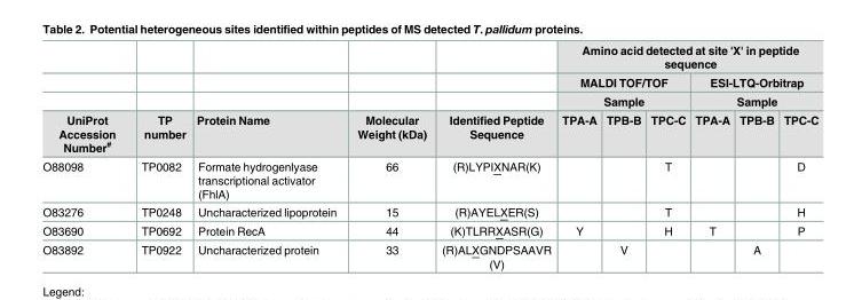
<table><thead><tr><td rowspan="4">UniProt Accession Number<sup>#</sup></td><td rowspan="4">TP number</td><td rowspan="4">Protein Name</td><td rowspan="4">Molecular Weight (kDa)</td><td rowspan="4">Identified Peptide Sequence</td><td colspan="6">Amino acid detected at site &#x27;X&#x27; in peptide sequence</td></tr><tr><td rowspan="2" colspan="3">MALDI TOF/TOF Sample</td><td rowspan="2" colspan="3">ESI-LTQ-Orbitrap Sample</td></tr><tr></tr><tr><td>TPA-A</td><td>TPB-B</td><td>TPC-C</td><td>TPA-A</td><td>TPB-B</td><td>TPC-C</td></tr></thead><tbody><tr><td>O88098</td><td>TP0082</td><td>Formate hydrogenlyase transcriptional activator (FhlA)</td><td>66</td><td>(R)LYPIXNAR(K)</td><td></td><td></td><td>T</td><td></td><td></td><td>D</td></tr><tr><td>O83276</td><td>TP0248</td><td>Uncharacterized lipoprotein</td><td>15</td><td>(R)AYELXER(S)</td><td></td><td></td><td>T</td><td></td><td></td><td>H</td></tr><tr><td>O83690</td><td>TP0692</td><td>Protein RecA</td><td>44</td><td>(K)TLRRXASR(G)</td><td>Y</td><td></td><td>H</td><td>T</td><td></td><td>P</td></tr><tr><td>O83892</td><td>TP0922</td><td>Uncharacterized protein</td><td>33</td><td>(R)ALXGNDPSAAVR</td><td></td><td>V</td><td></td><td></td><td>A</td><td></td></tr></tbody></table>